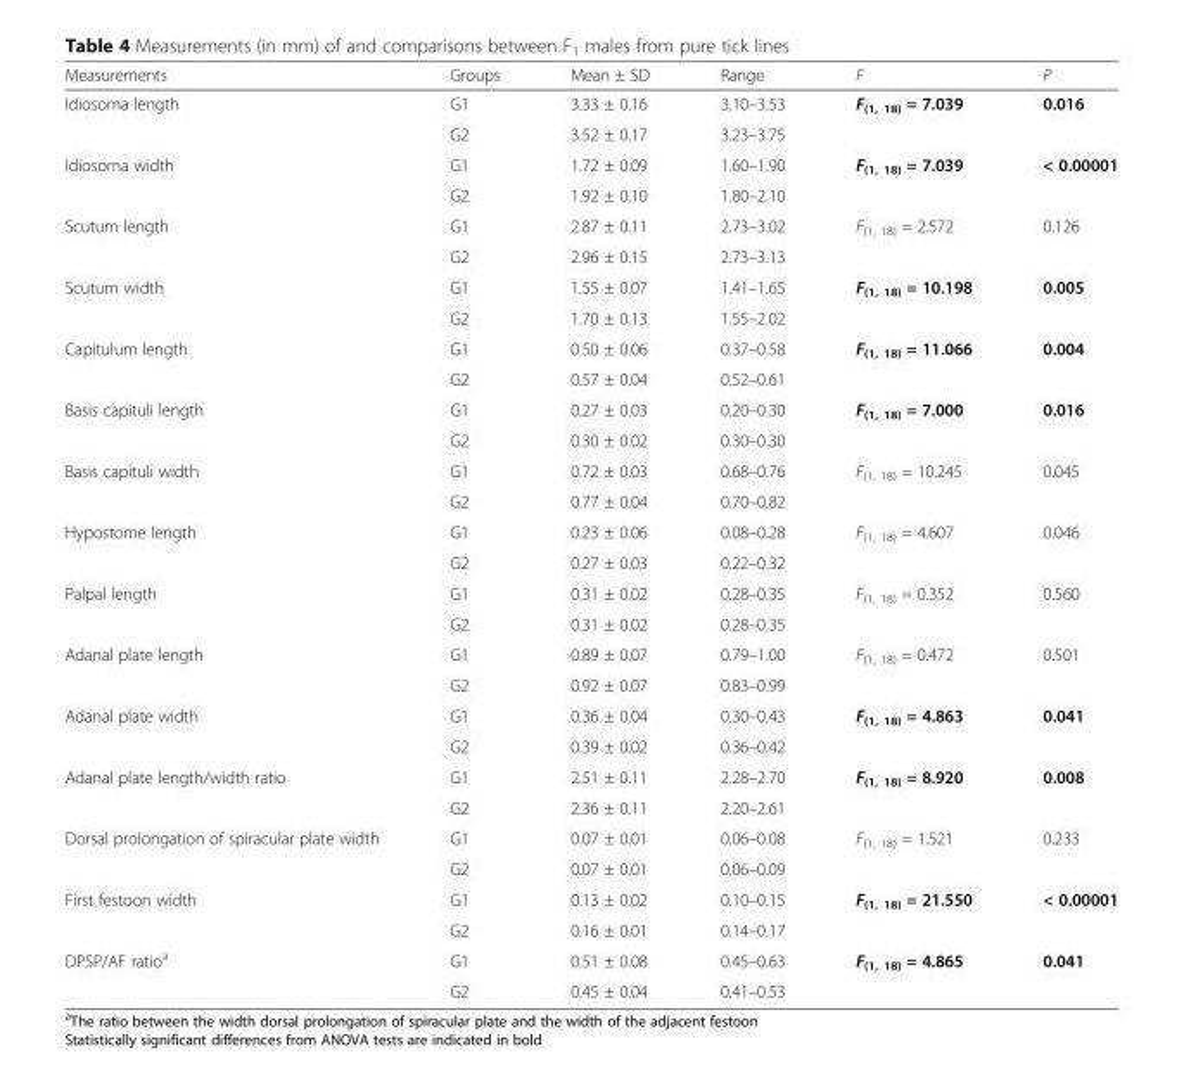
<table><thead><tr><td>Measurements</td><td>Groups</td><td>Mean ± SD</td><td>Range</td><td>F</td><td>P</td></tr></thead><tbody><tr><td rowspan="2">Idiosoma length</td><td>G1</td><td>3.33 ± 0.16</td><td>3.10–3.53</td><td rowspan="2">F<sub>(1, 18)</sub> = 7.039</td><td rowspan="2">0.016</td></tr><tr><td>G2</td><td>3.52 ± 0.17</td><td>3.23–3.75</td></tr><tr><td rowspan="2">Idiosoma width</td><td>G1</td><td>1.72 ± 0.09</td><td>1.60–1.90</td><td rowspan="2">F<sub>(1, 18)</sub> = 7.039</td><td rowspan="2">&lt; 0.00001</td></tr><tr><td>G2</td><td>1.92 ± 0.10</td><td>1.80–2.10</td></tr><tr><td rowspan="2">Scutum length</td><td>G1</td><td>2.87 ± 0.11</td><td>2.73–3.02</td><td rowspan="2">F<sub>(1, 18)</sub> = 2.572</td><td rowspan="2">0.126</td></tr><tr><td>G2</td><td>2.96 ± 0.15</td><td>2.73–3.13</td></tr><tr><td rowspan="2">Scutum width</td><td>G1</td><td>1.55 ± 0.07</td><td>1.41–1.65</td><td rowspan="2">F<sub>(1, 18)</sub> = 10.198</td><td rowspan="2">0.005</td></tr><tr><td>G2</td><td>1.70 ± 0.13</td><td>1.55–2.02</td></tr><tr><td rowspan="2">Capitulum length</td><td>G1</td><td>0.50 ± 0.06</td><td>0.37–0.58</td><td rowspan="2">F<sub>(1, 18)</sub> = 11.066</td><td rowspan="2">0.004</td></tr><tr><td>G2</td><td>0.57 ± 0.04</td><td>0.52–0.61</td></tr><tr><td rowspan="2">Basis capituli length</td><td>G1</td><td>0.27 ± 0.03</td><td>0.20–0.30</td><td rowspan="2">F<sub>(1, 18)</sub> = 7.000</td><td rowspan="2">0.016</td></tr><tr><td>G2</td><td>0.30 ± 0.02</td><td>0.30–0.30</td></tr><tr><td rowspan="2">Basis capituli width</td><td>G1</td><td>0.72 ± 0.03</td><td>0.68–0.76</td><td rowspan="2">F<sub>(1, 18)</sub> = 10.245</td><td rowspan="2">0.045</td></tr><tr><td>G2</td><td>0.77 ± 0.04</td><td>0.70–0.82</td></tr><tr><td rowspan="2">Hypostome length</td><td>G1</td><td>0.23 ± 0.06</td><td>0.08–0.28</td><td rowspan="2">F<sub>(1, 18)</sub> = 4.607</td><td rowspan="2">0.046</td></tr><tr><td>G2</td><td>0.27 ± 0.03</td><td>0.22–0.32</td></tr><tr><td rowspan="2">Palpal length</td><td>G1</td><td>0.31 ± 0.02</td><td>0.28–0.35</td><td rowspan="2">F<sub>(1, 18)</sub> = 0.352</td><td rowspan="2">0.560</td></tr><tr><td>G2</td><td>0.31 ± 0.02</td><td>0.28–0.35</td></tr><tr><td rowspan="2">Adanal plate length</td><td>G1</td><td>0.89 ± 0.07</td><td>0.79–1.00</td><td rowspan="2">F<sub>(1, 18)</sub> = 0.472</td><td rowspan="2">0.501</td></tr><tr><td>G2</td><td>0.92 ± 0.07</td><td>0.83–0.99</td></tr><tr><td rowspan="2">Adanal plate width</td><td>G1</td><td>0.36 ± 0.04</td><td>0.30–0.43</td><td rowspan="2">F<sub>(1, 18)</sub> = 4.863</td><td rowspan="2">0.041</td></tr><tr><td>G2</td><td>0.39 ± 0.02</td><td>0.36–0.42</td></tr><tr><td rowspan="2">Adanal plate length/width ratio</td><td>G1</td><td>2.51 ± 0.11</td><td>2.28–2.70</td><td rowspan="2">F<sub>(1, 18)</sub> = 8.920</td><td rowspan="2">0.008</td></tr><tr><td>G2</td><td>2.36 ± 0.11</td><td>2.20–2.61</td></tr><tr><td rowspan="2">Dorsal prolongation of spiracular plate width</td><td>G1</td><td>0.07 ± 0.01</td><td>0.06–0.08</td><td rowspan="2">F<sub>(1, 18)</sub> = 1.521</td><td rowspan="2">0.233</td></tr><tr><td>G2</td><td>0.07 ± 0.01</td><td>0.06–0.09</td></tr><tr><td rowspan="2">First festoon width</td><td>G1</td><td>0.13 ± 0.02</td><td>0.10–0.15</td><td rowspan="2">F<sub>(1, 18)</sub> = 21.550</td><td rowspan="2">&lt; 0.00001</td></tr><tr><td>G2</td><td>0.16 ± 0.01</td><td>0.14–0.17</td></tr><tr><td rowspan="2">DPSP/AF ratio<sup>a</sup></td><td>G1</td><td>0.51 ± 0.08</td><td>0.45–0.63</td><td rowspan="2">F<sub>(1, 18)</sub> = 4.865</td><td rowspan="2">0.041</td></tr><tr><td>G2</td><td>0.45 ± 0.04</td><td>0.41–0.53</td></tr></tbody></table>